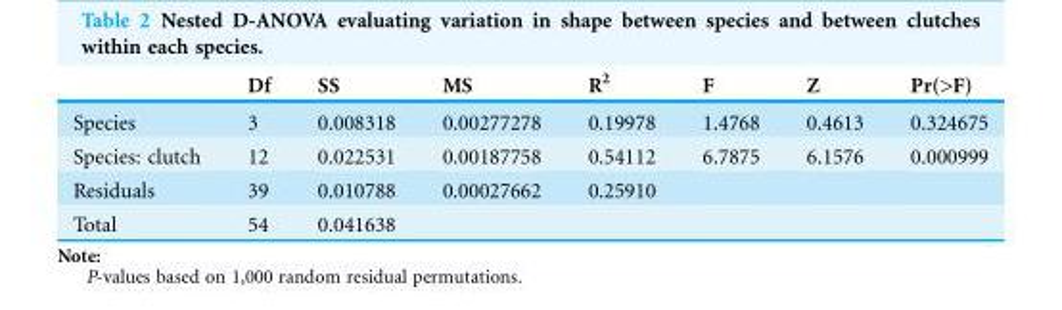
<table><thead><tr><td></td><td>Df</td><td>SS</td><td>MS</td><td>R<sup>2</sup></td><td>F</td><td>Z</td><td>Pr(&gt;F)</td></tr></thead><tbody><tr><td>Species</td><td>3</td><td>0.008318</td><td>0.00277278</td><td>0.19978</td><td>1.4768</td><td>0.4613</td><td>0.324675</td></tr><tr><td>Species: clutch</td><td>12</td><td>0.022531</td><td>0.00187758</td><td>0.54112</td><td>6.7875</td><td>6.1576</td><td>0.000999</td></tr><tr><td>Residuals</td><td>39</td><td>0.010788</td><td>0.00027662</td><td>0.25910</td><td></td><td></td><td></td></tr><tr><td>Total</td><td>54</td><td>0.041638</td><td></td><td></td><td></td><td></td><td></td></tr></tbody></table>